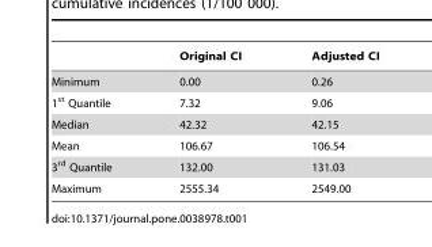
<table><thead><tr><td></td><td>Original CI</td><td>Adjusted CI</td></tr></thead><tbody><tr><td>Minimum</td><td>0.00</td><td>0.26</td></tr><tr><td>1<sup>st</sup> Quantile</td><td>7.32</td><td>9.06</td></tr><tr><td>Median</td><td>42.32</td><td>42.15</td></tr><tr><td>Mean</td><td>106.67</td><td>106.54</td></tr><tr><td>3<sup>rd</sup> Quantile</td><td>132.00</td><td>131.03</td></tr><tr><td>Maximum</td><td>2555.34</td><td>2549.00</td></tr></tbody></table>